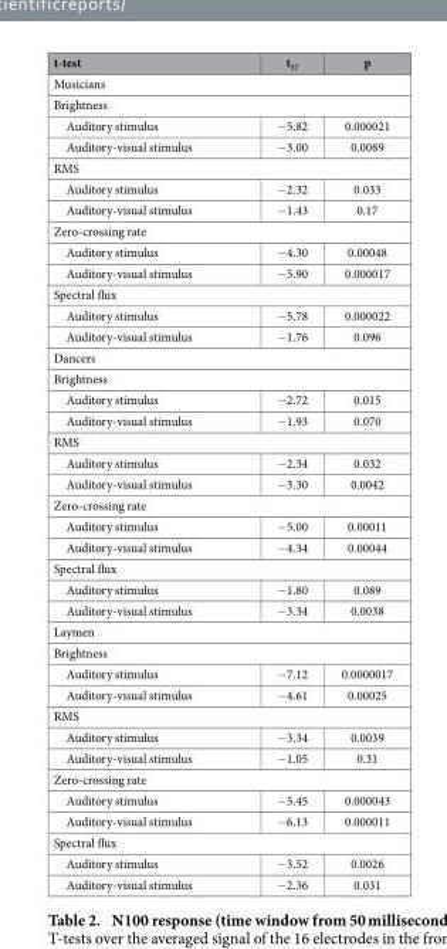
<table><thead><tr><td>t-test</td><td>t<sub>17</sub></td><td>p</td></tr></thead><tbody><tr><td colspan="3">Musicians</td></tr><tr><td colspan="3">Brightness</td></tr><tr><td>Auditory stimulus</td><td>− 5.82</td><td>0.000021</td></tr><tr><td>Auditory-visual stimulus</td><td>− 3.00</td><td>0.0089</td></tr><tr><td colspan="3">RMS</td></tr><tr><td>Auditory stimulus</td><td>− 2.32</td><td>0.033</td></tr><tr><td>Auditory-visual stimulus</td><td>− 1.43</td><td>0.17</td></tr><tr><td colspan="3">Zero-crossing rate</td></tr><tr><td>Auditory stimulus</td><td>− 4.30</td><td>0.00048</td></tr><tr><td>Auditory-visual stimulus</td><td>− 5.90</td><td>0.000017</td></tr><tr><td colspan="3">Spectral flux</td></tr><tr><td>Auditory stimulus</td><td>− 5.78</td><td>0.000022</td></tr><tr><td>Auditory-visual stimulus</td><td>− 1.76</td><td>0.096</td></tr><tr><td colspan="3">Dancers</td></tr><tr><td colspan="3">Brightness</td></tr><tr><td>Auditory stimulus</td><td>− 2.72</td><td>0.015</td></tr><tr><td>Auditory-visual stimulus</td><td>− 1.93</td><td>0.070</td></tr><tr><td colspan="3">RMS</td></tr><tr><td>Auditory stimulus</td><td>− 2.34</td><td>0.032</td></tr><tr><td>Auditory-visual stimulus</td><td>− 3.30</td><td>0.0042</td></tr><tr><td colspan="3">Zero-crossing rate</td></tr><tr><td>Auditory stimulus</td><td>− 5.00</td><td>0.00011</td></tr><tr><td>Auditory-visual stimulus</td><td>− 4.34</td><td>0.00044</td></tr><tr><td colspan="3">Spectral flux</td></tr><tr><td>Auditory stimulus</td><td>− 1.80</td><td>0.089</td></tr><tr><td>Auditory-visual stimulus</td><td>− 3.34</td><td>0.0038</td></tr><tr><td colspan="3">Laymen</td></tr><tr><td colspan="3">Brightness</td></tr><tr><td>Auditory stimulus</td><td>− 7.12</td><td>0.0000017</td></tr><tr><td>Auditory-visual stimulus</td><td>− 4.61</td><td>0.00025</td></tr><tr><td colspan="3">RMS</td></tr><tr><td>Auditory stimulus</td><td>− 3.34</td><td>0.0039</td></tr><tr><td>Auditory-visual stimulus</td><td>− 1.05</td><td>0.31</td></tr><tr><td colspan="3">Zero-crossing rate</td></tr><tr><td>Auditory stimulus</td><td>− 5.45</td><td>0.000043</td></tr><tr><td>Auditory-visual stimulus</td><td>− 6.13</td><td>0.000011</td></tr><tr><td colspan="3">Spectral flux</td></tr><tr><td>Auditory stimulus</td><td>− 3.52</td><td>0.0026</td></tr><tr><td>Auditory-visual stimulus</td><td>− 2.36</td><td>0.031</td></tr></tbody></table>